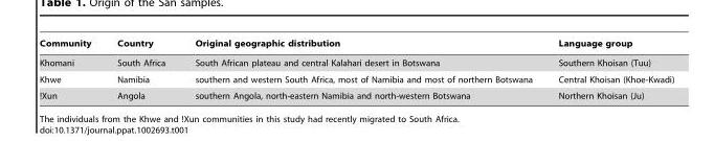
<table><thead><tr><td>Community</td><td>Country</td><td>Original geographic distribution</td><td>Language group</td></tr></thead><tbody><tr><td>Khomani</td><td>South Africa</td><td>South African plateau and central Kalahari desert in Botswana</td><td>Southern Khoisan (Tuu)</td></tr><tr><td>Khwe</td><td>Namibia</td><td>southern and western South Africa, most of Namibia and most of northern Botswana</td><td>Central Khoisan (Khoe-Kwadi)</td></tr><tr><td>!Xun</td><td>Angola</td><td>southern Angola, north-eastern Namibia and north-western Botswana</td><td>Northern Khoisan (Ju)</td></tr></tbody></table>